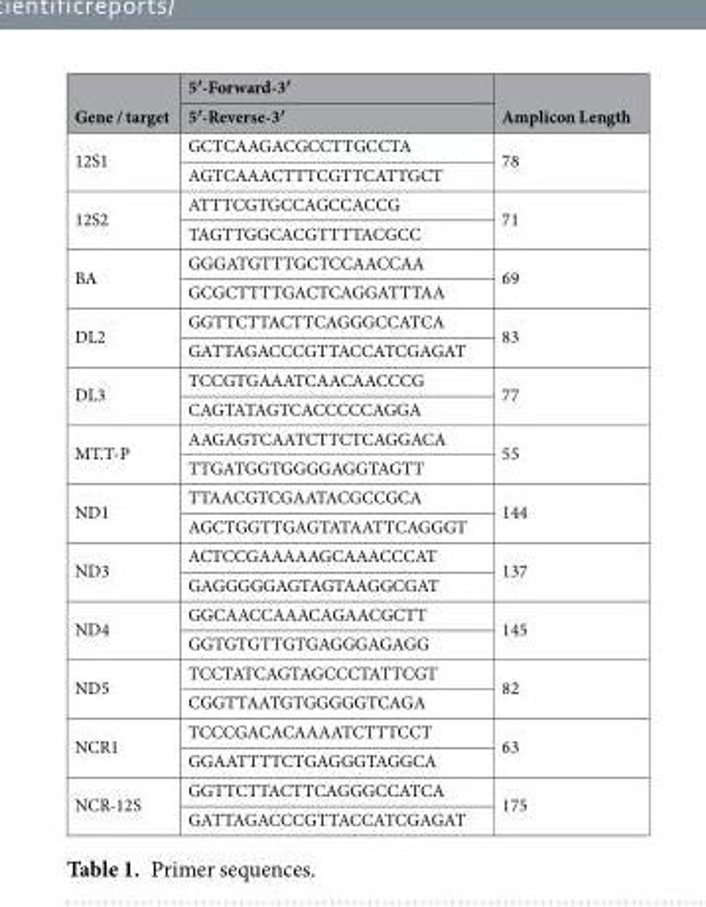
<table><thead><tr><td rowspan="2">Gene / target</td><td rowspan="2">5′-Forward-3′ 5′-Reverse-3′</td><td rowspan="2">Amplicon Length</td></tr><tr></tr></thead><tbody><tr><td rowspan="2">12S1</td><td>GCTCAAGACGCCTTGCCTA</td><td rowspan="2">78</td></tr><tr><td>AGTCAAACTTTCGTTCATTGCT</td></tr><tr><td rowspan="2">12S2</td><td>ATTTCGTGCCAGCCACCG</td><td rowspan="2">71</td></tr><tr><td>TAGTTGGCACGTTTTACGCC</td></tr><tr><td rowspan="2">BA</td><td>GGGATGTTTGCTCCAACCAA</td><td rowspan="2">69</td></tr><tr><td>GCGCTTTTGACTCAGGATTTAA</td></tr><tr><td rowspan="2">DL2</td><td>GGTTCTTACTTCAGGGCCATCA</td><td rowspan="2">83</td></tr><tr><td>GATTAGACCCGTTACCATCGAGAT</td></tr><tr><td rowspan="2">DL3</td><td>TCCGTGAAATCAACAACCCG</td><td rowspan="2">77</td></tr><tr><td>CAGTATAGTCACCCCCAGGA</td></tr><tr><td rowspan="2">MT.T-P</td><td>AAGAGTCAATCTTCTCAGGACA</td><td rowspan="2">55</td></tr><tr><td>TTGATGGTGGGGAGGTAGTT</td></tr><tr><td rowspan="2">ND1</td><td>TTAACGTCGAATACGCCGCA</td><td rowspan="2">144</td></tr><tr><td>AGCTGGTTGAGTATAATTCAGGGT</td></tr><tr><td rowspan="2">ND3</td><td>ACTCCGAAAAAGCAAACCCAT</td><td rowspan="2">137</td></tr><tr><td>GAGGGGGAGTAGTAAGGCGAT</td></tr><tr><td rowspan="2">ND4</td><td>GGCAACCAAACAGAACGCTT</td><td rowspan="2">145</td></tr><tr><td>GGTGTGTTGTGAGGGAGAGG</td></tr><tr><td rowspan="2">ND5</td><td>TCCTATCAGTAGCCCTATTCGT</td><td rowspan="2">82</td></tr><tr><td>CGGTTAATGTGGGGGTCAGA</td></tr><tr><td rowspan="2">NCR1</td><td>TCCCGACACAAAATCTTTCCT</td><td rowspan="2">63</td></tr><tr><td>GGAATTTTCTGAGGGTAGGCA</td></tr><tr><td rowspan="2">NCR-12S</td><td>GGTTCTTACTTCAGGGCCATCA</td><td rowspan="2">175</td></tr><tr><td>GATTAGACCCGTTACCATCGAGAT</td></tr></tbody></table>